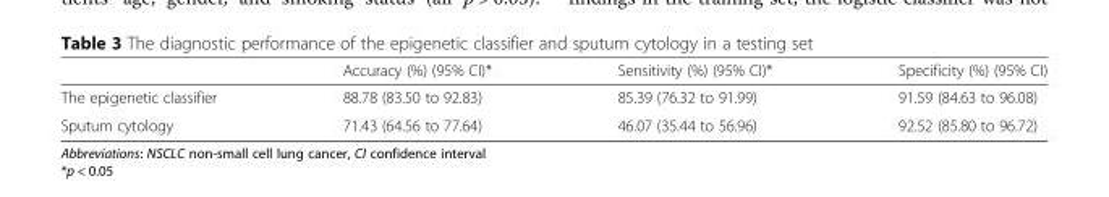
<table><thead><tr><td></td><td>Accuracy (%) (95% CI)*</td><td>Sensitivity (%) (95% CI)*</td><td>Specificity (%) (95% CI)</td></tr></thead><tbody><tr><td>The epigenetic classifier</td><td>88.78 (83.50 to 92.83)</td><td>85.39 (76.32 to 91.99)</td><td>91.59 (84.63 to 96.08)</td></tr><tr><td>Sputum cytology</td><td>71.43 (64.56 to 77.64)</td><td>46.07 (35.44 to 56.96)</td><td>92.52 (85.80 to 96.72)</td></tr></tbody></table>